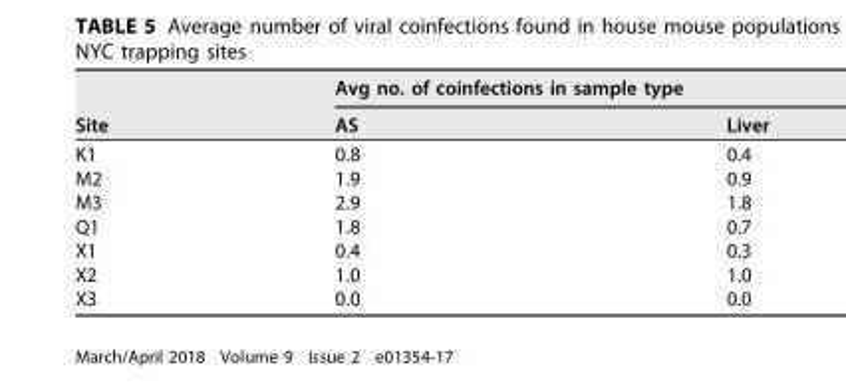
<table><thead><tr><td rowspan="2">Site</td><td colspan="2">Avg no. of coinfections in sample type</td></tr><tr><td>AS</td><td>Liver</td></tr></thead><tbody><tr><td>K1</td><td>0.8</td><td>0.4</td></tr><tr><td>M2</td><td>1.9</td><td>0.9</td></tr><tr><td>M3</td><td>2.9</td><td>1.8</td></tr><tr><td>Q1</td><td>1.8</td><td>0.7</td></tr><tr><td>X1</td><td>0.4</td><td>0.3</td></tr><tr><td>X2</td><td>1.0</td><td>1.0</td></tr><tr><td>X3</td><td>0.0</td><td>0.0</td></tr></tbody></table>